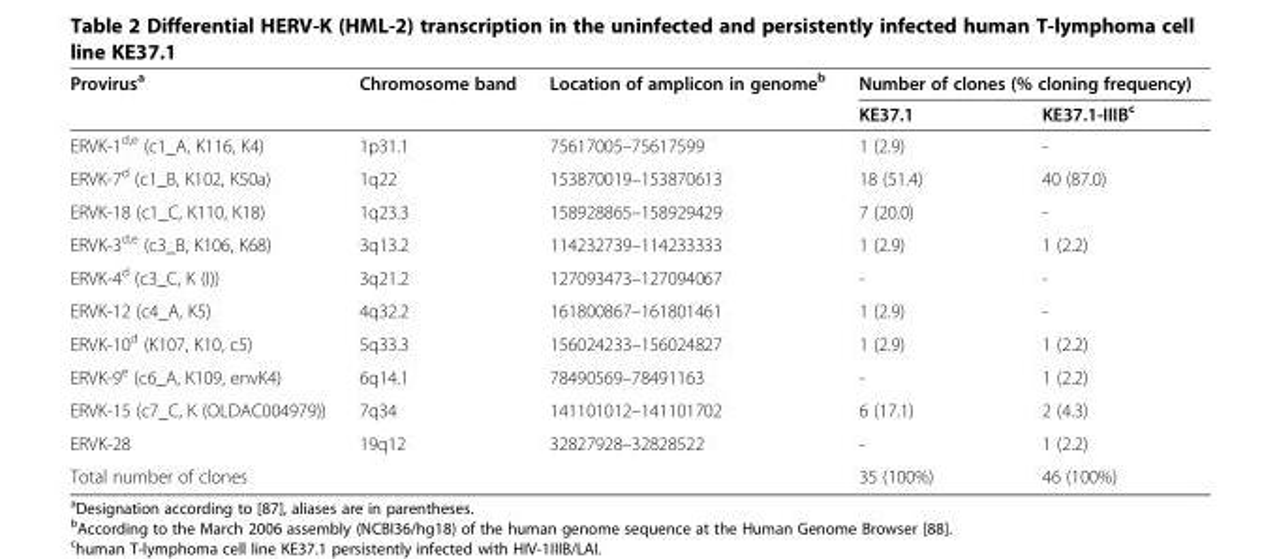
<table><thead><tr><td rowspan="2">Provirus<sup>a</sup></td><td rowspan="2">Chromosome band</td><td rowspan="2">Location of amplicon in genome<sup>b</sup></td><td colspan="2">Number of clones (% cloning frequency)</td></tr><tr><td>KE37.1</td><td>KE37.1-IIIB<sup>c</sup></td></tr></thead><tbody><tr><td>ERVK-1<sup>d,e</sup> (c1_A, K116, K4)</td><td>1p31.1</td><td>75617005–75617599</td><td>1 (2.9)</td><td>-</td></tr><tr><td>ERVK-7<sup>d</sup> (c1_B, K102, K50a)</td><td>1q22</td><td>153870019–153870613</td><td>18 (51.4)</td><td>40 (87.0)</td></tr><tr><td>ERVK-18 (c1_C, K110, K18)</td><td>1q23.3</td><td>158928865–158929429</td><td>7 (20.0)</td><td>-</td></tr><tr><td>ERVK-3<sup>d,e</sup> (c3_B, K106, K68)</td><td>3q13.2</td><td>114232739–114233333</td><td>1 (2.9)</td><td>1 (2.2)</td></tr><tr><td>ERVK-4<sup>d</sup> (c3_C, K (I))</td><td>3q21.2</td><td>127093473–127094067</td><td>-</td><td>-</td></tr><tr><td>ERVK-12 (c4_A, K5)</td><td>4q32.2</td><td>161800867–161801461</td><td>1 (2.9)</td><td>-</td></tr><tr><td>ERVK-10<sup>d</sup> (K107, K10, c5)</td><td>5q33.3</td><td>156024233–156024827</td><td>1 (2.9)</td><td>1 (2.2)</td></tr><tr><td>ERVK-9<sup>e</sup> (c6_A, K109, envK4)</td><td>6q14.1</td><td>78490569–78491163</td><td>-</td><td>1 (2.2)</td></tr><tr><td>ERVK-15 (c7_C, K (OLDAC004979))</td><td>7q34</td><td>141101012–141101702</td><td>6 (17.1)</td><td>2 (4.3)</td></tr><tr><td>ERVK-28</td><td>19q12</td><td>32827928–32828522</td><td>-</td><td>1 (2.2)</td></tr><tr><td colspan="3">Total number of clones</td><td>35 (100%)</td><td>46 (100%)</td></tr></tbody></table>